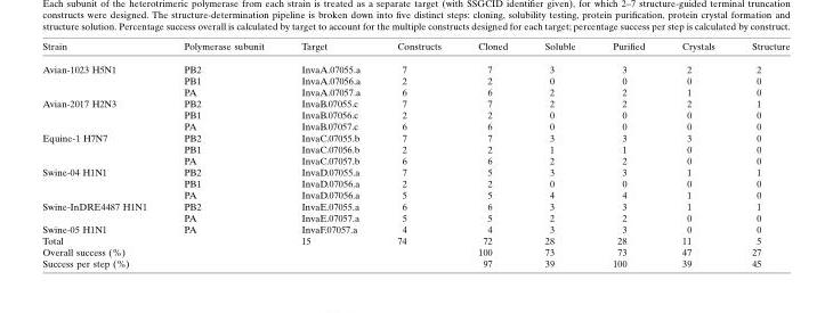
<table><thead><tr><td>Strain</td><td>Polymerase subunit</td><td>Target</td><td>Constructs</td><td>Cloned</td><td>Soluble</td><td>Purified</td><td>Crystals</td><td>Structure</td></tr></thead><tbody><tr><td rowspan="3">Avian-1023 H5N1</td><td>PB2</td><td>InvaA.07055.a</td><td>7</td><td>7</td><td>3</td><td>3</td><td>2</td><td>2</td></tr><tr><td>PB1</td><td>InvaA.07056.a</td><td>2</td><td>2</td><td>0</td><td>0</td><td>0</td><td>0</td></tr><tr><td>PA</td><td>InvaA.07057.a</td><td>6</td><td>6</td><td>2</td><td>2</td><td>1</td><td>0</td></tr><tr><td rowspan="3">Avian-2017 H2N3</td><td>PB2</td><td>InvaB.07055.c</td><td>7</td><td>7</td><td>2</td><td>2</td><td>2</td><td>1</td></tr><tr><td>PB1</td><td>InvaB.07056.c</td><td>2</td><td>2</td><td>0</td><td>0</td><td>0</td><td>0</td></tr><tr><td>PA</td><td>InvaB.07057.c</td><td>6</td><td>6</td><td>0</td><td>0</td><td>0</td><td>0</td></tr><tr><td rowspan="3">Equine-1 H7N7</td><td>PB2</td><td>InvaC.07055.b</td><td>7</td><td>7</td><td>3</td><td>3</td><td>3</td><td>0</td></tr><tr><td>PB1</td><td>InvaC.07056.b</td><td>2</td><td>2</td><td>1</td><td>1</td><td>0</td><td>0</td></tr><tr><td>PA</td><td>InvaC.07057.b</td><td>6</td><td>6</td><td>2</td><td>2</td><td>0</td><td>0</td></tr><tr><td rowspan="3">Swine-04 H1N1</td><td>PB2</td><td>InvaD.07055.a</td><td>7</td><td>5</td><td>3</td><td>3</td><td>1</td><td>1</td></tr><tr><td>PB1</td><td>InvaD.07056.a</td><td>2</td><td>2</td><td>0</td><td>0</td><td>0</td><td>0</td></tr><tr><td>PA</td><td>InvaD.07056.a</td><td>5</td><td>5</td><td>4</td><td>4</td><td>1</td><td>0</td></tr><tr><td rowspan="2">Swine-InDRE4487 H1N1</td><td>PB2</td><td>InvaE.07055.a</td><td>6</td><td>6</td><td>3</td><td>3</td><td>1</td><td>1</td></tr><tr><td>PA</td><td>InvaE.07057.a</td><td>5</td><td>5</td><td>2</td><td>2</td><td>0</td><td>0</td></tr><tr><td>Swine-05 H1N1</td><td>PA</td><td>InvaF.07057.a</td><td>4</td><td>4</td><td>3</td><td>3</td><td>0</td><td>0</td></tr><tr><td colspan="2">Total</td><td>15</td><td>74</td><td>72</td><td>28</td><td>28</td><td>11</td><td>5</td></tr><tr><td colspan="2">Overall success (%)</td><td></td><td></td><td>100</td><td>73</td><td>73</td><td>47</td><td>27</td></tr><tr><td colspan="2">Success per step (%)</td><td></td><td></td><td>97</td><td>39</td><td>100</td><td>39</td><td>45</td></tr></tbody></table>